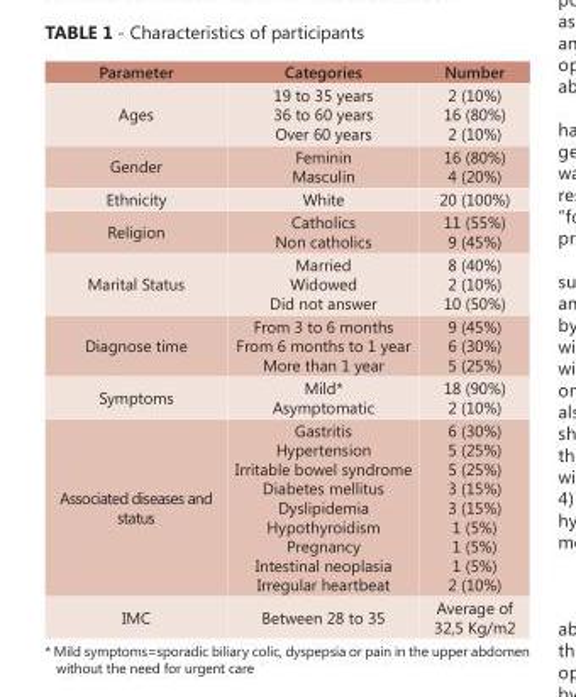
<table><thead><tr><td>Parameter</td><td>Categories</td><td>Number</td></tr></thead><tbody><tr><td>Ages</td><td>19 to 35 years 36 to 60 years Over 60 years</td><td>2 (10%) 16 (80%) 2 (10%)</td></tr><tr><td>Gender</td><td>Feminin Masculin</td><td>16 (80%) 4 (20%)</td></tr><tr><td>Ethnicity</td><td>White</td><td>20 (100%)</td></tr><tr><td>Religion</td><td>Catholics Non catholics</td><td>11 (55%) 9 (45%)</td></tr><tr><td>Marital Status</td><td>Married Widowed Did not answer</td><td>8 (40%) 2 (10%) 10 (50%)</td></tr><tr><td>Diagnose time</td><td>From 3 to 6 months From 6 months to 1 year More than 1 year</td><td>9 (45%) 6 (30%) 5 (25%)</td></tr><tr><td>Symptoms</td><td>Mild* Asymptomatic</td><td>18 (90%) 2 (10%)</td></tr><tr><td>Associated diseases and status</td><td>Gastritis Hypertension Irritable bowel syndrome Diabetes mellitus Dyslipidemia Hypothyroidism Pregnancy Intestinal neoplasia Irregular heartbeat</td><td>6 (30%) 5 (25%) 5 (25%) 3 (15%) 3 (15%) 1 (5%) 1 (5%) 1 (5%) 2 (10%)</td></tr><tr><td>IMC</td><td>Between 28 to 35</td><td>Average of 32,5 Kg/m2</td></tr></tbody></table>